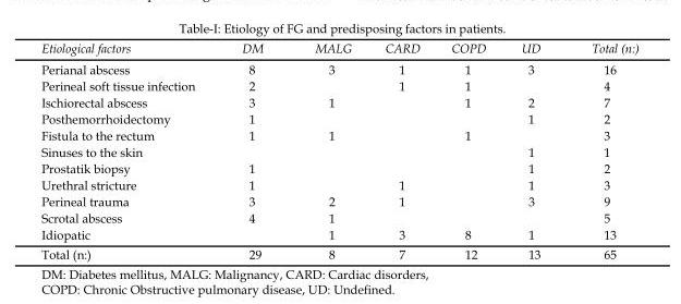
<table><thead><tr><td>Etiological factors</td><td>DM</td><td>MALG</td><td>CARD</td><td>COPD</td><td>UD</td><td>Total (n:)</td></tr></thead><tbody><tr><td>Perianal abscess</td><td>8</td><td>3</td><td>1</td><td>1</td><td>3</td><td>16</td></tr><tr><td>Perineal soft tissue infection</td><td>2</td><td></td><td>1</td><td>1</td><td></td><td>4</td></tr><tr><td>Ischiorectal abscess</td><td>3</td><td>1</td><td></td><td>1</td><td>2</td><td>7</td></tr><tr><td>Posthemorrhoidectomy</td><td>1</td><td></td><td></td><td></td><td>1</td><td>2</td></tr><tr><td>Fistula to the rectum</td><td>1</td><td>1</td><td></td><td>1</td><td></td><td>3</td></tr><tr><td>Sinuses to the skin</td><td></td><td></td><td></td><td></td><td>1</td><td>1</td></tr><tr><td>Prostatik biopsy</td><td>1</td><td></td><td></td><td></td><td>1</td><td>2</td></tr><tr><td>Urethral stricture</td><td>1</td><td></td><td>1</td><td></td><td>1</td><td>3</td></tr><tr><td>Perineal trauma</td><td>3</td><td>2</td><td>1</td><td></td><td>3</td><td>9</td></tr><tr><td>Scrotal abscess</td><td>4</td><td>1</td><td></td><td></td><td></td><td>5</td></tr><tr><td>Idiopatic</td><td></td><td>1</td><td>3</td><td>8</td><td>1</td><td>13</td></tr><tr><td>Total (n:)</td><td>29</td><td>8</td><td>7</td><td>12</td><td>13</td><td>65</td></tr></tbody></table>